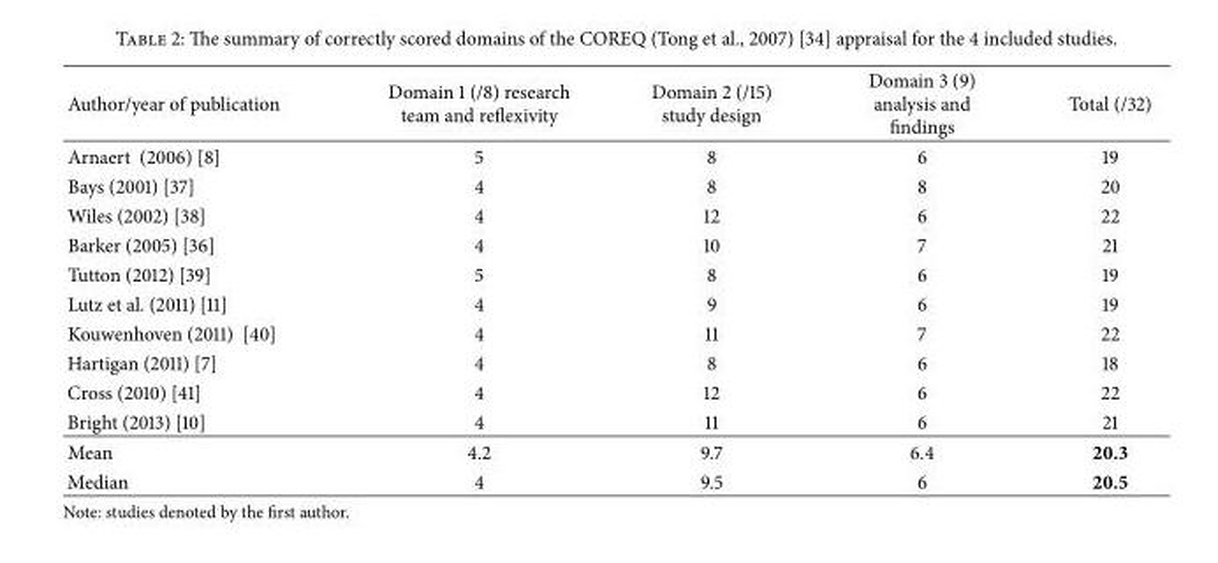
<table><thead><tr><td>Author/year of publication</td><td>Domain 1 (/8) research team and reflexivity</td><td>Domain 2 (/15) study design</td><td>Domain 3 (9) analysis and findings</td><td>Total (/32)</td></tr></thead><tbody><tr><td>Arnaert (2006) [8]</td><td>5</td><td>8</td><td>6</td><td>19</td></tr><tr><td>Bays (2001) [37]</td><td>4</td><td>8</td><td>8</td><td>20</td></tr><tr><td>Wiles (2002) [38]</td><td>4</td><td>12</td><td>6</td><td>22</td></tr><tr><td>Barker (2005) [36]</td><td>4</td><td>10</td><td>7</td><td>21</td></tr><tr><td>Tutton (2012) [39]</td><td>5</td><td>8</td><td>6</td><td>19</td></tr><tr><td>Lutz et al. (2011) [11]</td><td>4</td><td>9</td><td>6</td><td>19</td></tr><tr><td>Kouwenhoven (2011) [40]</td><td>4</td><td>11</td><td>7</td><td>22</td></tr><tr><td>Hartigan (2011) [7]</td><td>4</td><td>8</td><td>6</td><td>18</td></tr><tr><td>Cross (2010) [41]</td><td>4</td><td>12</td><td>6</td><td>22</td></tr><tr><td>Bright (2013) [10]</td><td>4</td><td>11</td><td>6</td><td>21</td></tr><tr><td>Mean</td><td>4.2</td><td>9.7</td><td>6.4</td><td>20.3</td></tr><tr><td>Median</td><td>4</td><td>9.5</td><td>6</td><td>20.5</td></tr></tbody></table>